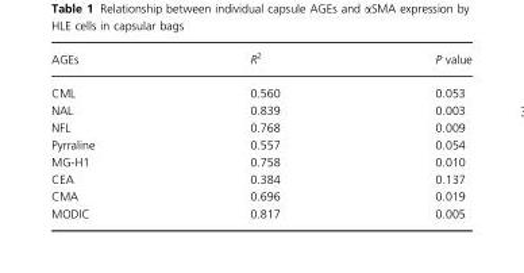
<table><thead><tr><td>AGEs</td><td>R<sup>2</sup></td><td>P value</td></tr></thead><tbody><tr><td>CML</td><td>0.560</td><td>0.053</td></tr><tr><td>NAL</td><td>0.839</td><td>0.003</td></tr><tr><td>NFL</td><td>0.768</td><td>0.009</td></tr><tr><td>Pyrraline</td><td>0.557</td><td>0.054</td></tr><tr><td>MG-H1</td><td>0.758</td><td>0.010</td></tr><tr><td>CEA</td><td>0.384</td><td>0.137</td></tr><tr><td>CMA</td><td>0.696</td><td>0.019</td></tr><tr><td>MODIC</td><td>0.817</td><td>0.005</td></tr></tbody></table>